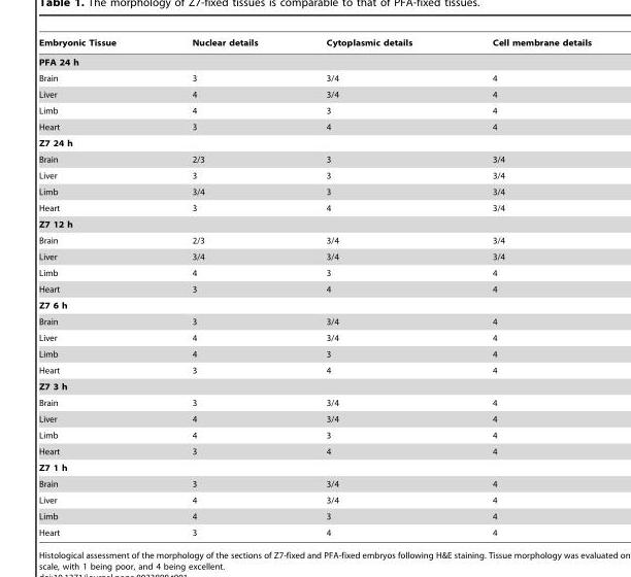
<table><thead><tr><td>Embryonic Tissue</td><td>Nuclear details</td><td>Cytoplasmic details</td><td>Cell membrane details</td></tr></thead><tbody><tr><td colspan="4">PFA 24 h</td></tr><tr><td>Brain</td><td>3</td><td>3/4</td><td>4</td></tr><tr><td>Liver</td><td>4</td><td>3/4</td><td>4</td></tr><tr><td>Limb</td><td>4</td><td>3</td><td>4</td></tr><tr><td>Heart</td><td>3</td><td>4</td><td>4</td></tr><tr><td colspan="4">Z7 24 h</td></tr><tr><td>Brain</td><td>2/3</td><td>3</td><td>3/4</td></tr><tr><td>Liver</td><td>3</td><td>3</td><td>3/4</td></tr><tr><td>Limb</td><td>3/4</td><td>3</td><td>3/4</td></tr><tr><td>Heart</td><td>3</td><td>4</td><td>3/4</td></tr><tr><td colspan="4">Z7 12 h</td></tr><tr><td>Brain</td><td>2/3</td><td>3/4</td><td>3/4</td></tr><tr><td>Liver</td><td>3/4</td><td>3/4</td><td>3/4</td></tr><tr><td>Limb</td><td>4</td><td>3</td><td>4</td></tr><tr><td>Heart</td><td>3</td><td>4</td><td>4</td></tr><tr><td colspan="4">Z7 6 h</td></tr><tr><td>Brain</td><td>3</td><td>3/4</td><td>4</td></tr><tr><td>Liver</td><td>4</td><td>3/4</td><td>4</td></tr><tr><td>Limb</td><td>4</td><td>3</td><td>4</td></tr><tr><td>Heart</td><td>3</td><td>4</td><td>4</td></tr><tr><td colspan="4">Z7 3 h</td></tr><tr><td>Brain</td><td>3</td><td>3/4</td><td>4</td></tr><tr><td>Liver</td><td>4</td><td>3/4</td><td>4</td></tr><tr><td>Limb</td><td>4</td><td>3</td><td>4</td></tr><tr><td>Heart</td><td>3</td><td>4</td><td>4</td></tr><tr><td colspan="4">Z7 1 h</td></tr><tr><td>Brain</td><td>3</td><td>3/4</td><td>4</td></tr><tr><td>Liver</td><td>4</td><td>3/4</td><td>4</td></tr><tr><td>Limb</td><td>4</td><td>3</td><td>4</td></tr><tr><td>Heart</td><td>3</td><td>4</td><td>4</td></tr></tbody></table>